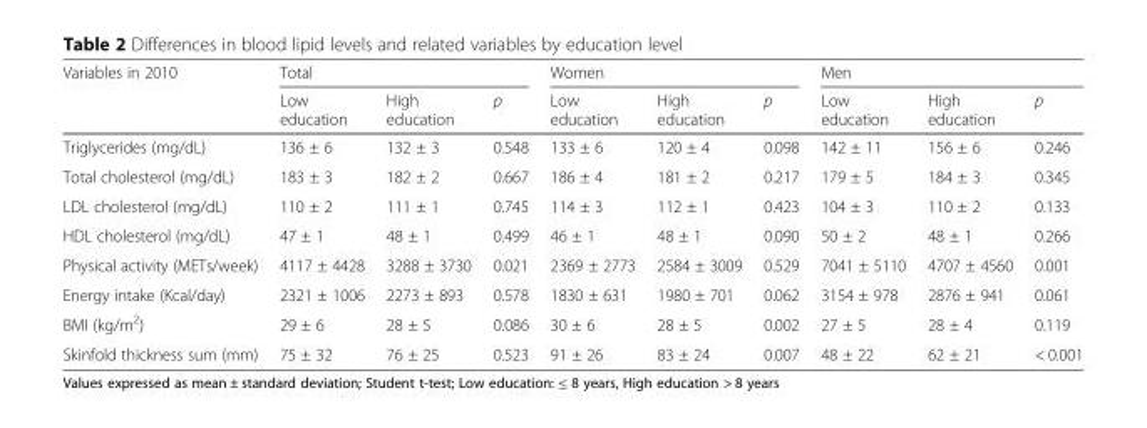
<table><thead><tr><td rowspan="2">Variables in 2010</td><td colspan="3">Total</td><td colspan="3">Women</td><td colspan="3">Men</td></tr><tr><td>Low education</td><td>High education</td><td>p</td><td>Low education</td><td>High education</td><td>p</td><td>Low education</td><td>High education</td><td>p</td></tr></thead><tbody><tr><td>Triglycerides (mg/dL)</td><td>136 ± 6</td><td>132 ± 3</td><td>0.548</td><td>133 ± 6</td><td>120 ± 4</td><td>0.098</td><td>142 ± 11</td><td>156 ± 6</td><td>0.246</td></tr><tr><td>Total cholesterol (mg/dL)</td><td>183 ± 3</td><td>182 ± 2</td><td>0.667</td><td>186 ± 4</td><td>181 ± 2</td><td>0.217</td><td>179 ± 5</td><td>184 ± 3</td><td>0.345</td></tr><tr><td>LDL cholesterol (mg/dL)</td><td>110 ± 2</td><td>111 ± 1</td><td>0.745</td><td>114 ± 3</td><td>112 ± 1</td><td>0.423</td><td>104 ± 3</td><td>110 ± 2</td><td>0.133</td></tr><tr><td>HDL cholesterol (mg/dL)</td><td>47 ± 1</td><td>48 ± 1</td><td>0.499</td><td>46 ± 1</td><td>48 ± 1</td><td>0.090</td><td>50 ± 2</td><td>48 ± 1</td><td>0.266</td></tr><tr><td>Physical activity (METs/week)</td><td>4117 ± 4428</td><td>3288 ± 3730</td><td>0.021</td><td>2369 ± 2773</td><td>2584 ± 3009</td><td>0.529</td><td>7041 ± 5110</td><td>4707 ± 4560</td><td>0.001</td></tr><tr><td>Energy intake (Kcal/day)</td><td>2321 ± 1006</td><td>2273 ± 893</td><td>0.578</td><td>1830 ± 631</td><td>1980 ± 701</td><td>0.062</td><td>3154 ± 978</td><td>2876 ± 941</td><td>0.061</td></tr><tr><td>BMI (kg/m<sup>2</sup>)</td><td>29 ± 6</td><td>28 ± 5</td><td>0.086</td><td>30 ± 6</td><td>28 ± 5</td><td>0.002</td><td>27 ± 5</td><td>28 ± 4</td><td>0.119</td></tr><tr><td>Skinfold thickness sum (mm)</td><td>75 ± 32</td><td>76 ± 25</td><td>0.523</td><td>91 ± 26</td><td>83 ± 24</td><td>0.007</td><td>48 ± 22</td><td>62 ± 21</td><td>&lt; 0.001</td></tr></tbody></table>